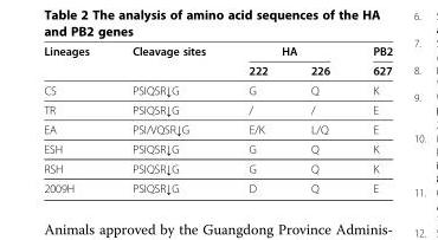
<table><thead><tr><td rowspan="2">Lineages</td><td rowspan="2">Cleavage sites</td><td colspan="2">HA</td><td rowspan="2">PB2 627</td></tr><tr><td>222</td><td>226</td></tr></thead><tbody><tr><td>CS</td><td>PSIQSR↓G</td><td>G</td><td>Q</td><td>K</td></tr><tr><td>TR</td><td>PSIQSR↓G</td><td>/</td><td>/</td><td>E</td></tr><tr><td>EA</td><td>PSI/VQSR↓G</td><td>E/K</td><td>L/Q</td><td>E</td></tr><tr><td>ESH</td><td>PSIQSR↓G</td><td>G</td><td>Q</td><td>K</td></tr><tr><td>RSH</td><td>PSIQSR↓G</td><td>G</td><td>Q</td><td>K</td></tr><tr><td>2009H</td><td>PSIQSR↓G</td><td>D</td><td>Q</td><td>E</td></tr></tbody></table>